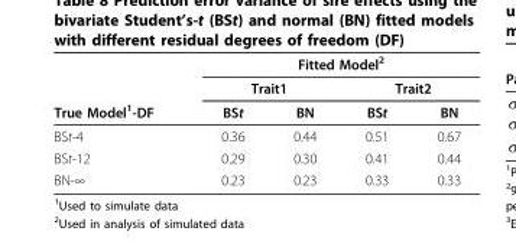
<table><thead><tr><td rowspan="3">True Model<sup>1</sup>-DF</td><td colspan="4">Fitted Model<sup>2</sup></td></tr><tr><td colspan="2">Trait1</td><td colspan="2">Trait2</td></tr><tr><td>BSt</td><td>BN</td><td>BSt</td><td>BN</td></tr></thead><tbody><tr><td>BSt-4</td><td>0.36</td><td>0.44</td><td>0.51</td><td>0.67</td></tr><tr><td>BSt-12</td><td>0.29</td><td>0.30</td><td>0.41</td><td>0.44</td></tr><tr><td>BN-∞</td><td>0.23</td><td>0.23</td><td>0.33</td><td>0.33</td></tr></tbody></table>